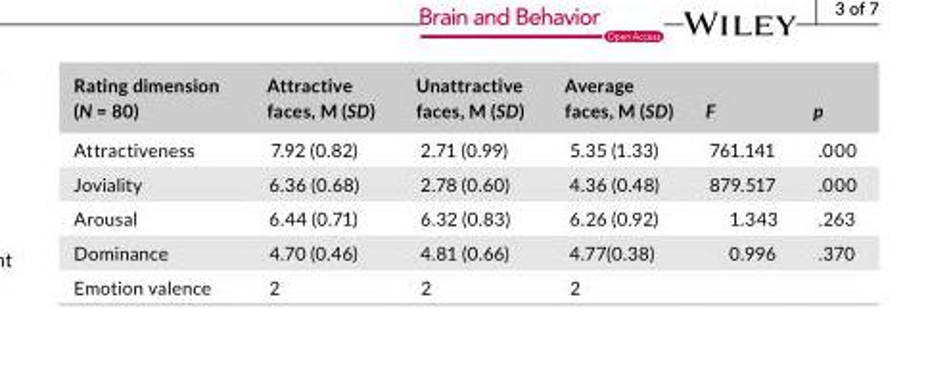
<table><thead><tr><td>Rating dimension (N = 80)</td><td>Attractive faces, M (SD)</td><td>Unattractive faces, M (SD)</td><td>Average faces, M (SD)</td><td>F</td><td>p</td></tr></thead><tbody><tr><td>Attractiveness</td><td>7.92 (0.82)</td><td>2.71 (0.99)</td><td>5.35 (1.33)</td><td>761.141</td><td>.000</td></tr><tr><td>Joviality</td><td>6.36 (0.68)</td><td>2.78 (0.60)</td><td>4.36 (0.48)</td><td>879.517</td><td>.000</td></tr><tr><td>Arousal</td><td>6.44 (0.71)</td><td>6.32 (0.83)</td><td>6.26 (0.92)</td><td>1.343</td><td>.263</td></tr><tr><td>Dominance</td><td>4.70 (0.46)</td><td>4.81 (0.66)</td><td>4.77(0.38)</td><td>0.996</td><td>.370</td></tr><tr><td>Emotion valence</td><td>2</td><td>2</td><td>2</td><td></td><td></td></tr></tbody></table>